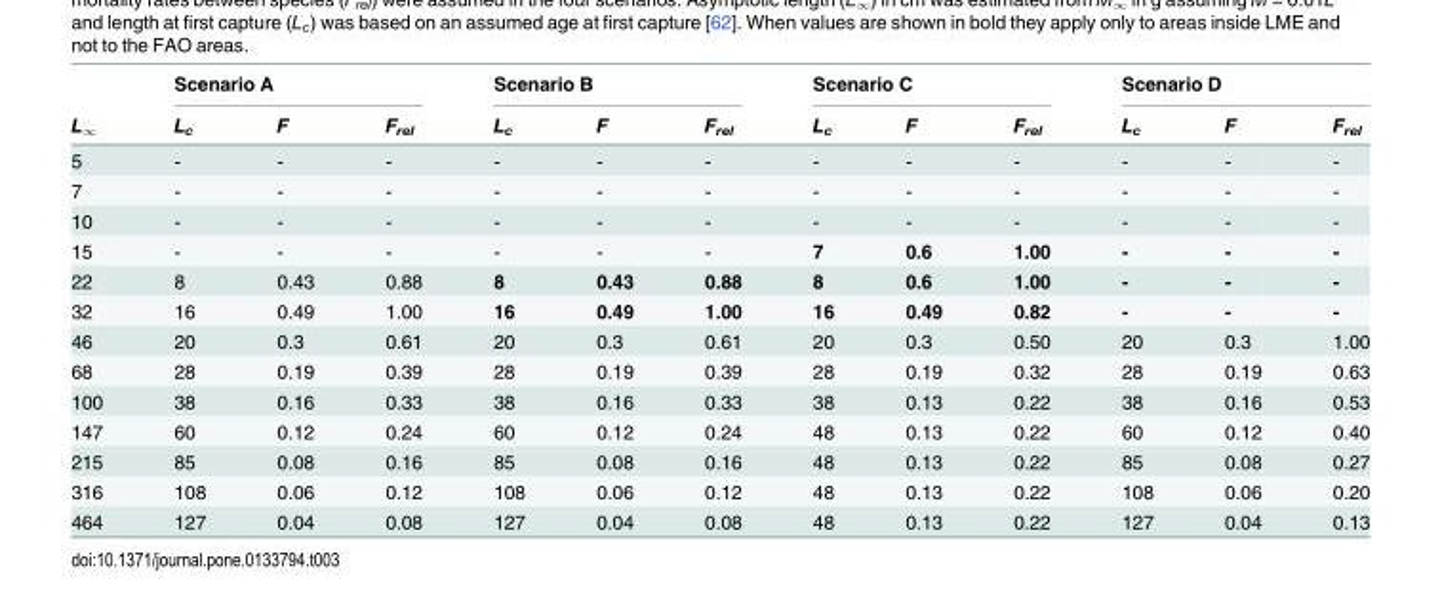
<table><thead><tr><td rowspan="2">L<sub>∞</sub></td><td colspan="3">Scenario A</td><td colspan="3">Scenario B</td><td colspan="3">Scenario C</td><td colspan="3">Scenario D</td></tr><tr><td>L<sub>c</sub></td><td>F</td><td>F<sub>rel</sub></td><td>L<sub>c</sub></td><td>F</td><td>F<sub>rel</sub></td><td>L<sub>c</sub></td><td>F</td><td>F<sub>rel</sub></td><td>L<sub>c</sub></td><td>F</td><td>F<sub>rel</sub></td></tr></thead><tbody><tr><td>5</td><td>-</td><td>-</td><td>-</td><td>-</td><td>-</td><td>-</td><td>-</td><td>-</td><td>-</td><td>-</td><td>-</td><td>-</td></tr><tr><td>7</td><td>-</td><td>-</td><td>-</td><td>-</td><td>-</td><td>-</td><td>-</td><td>-</td><td>-</td><td>-</td><td>-</td><td>-</td></tr><tr><td>10</td><td>-</td><td>-</td><td>-</td><td>-</td><td>-</td><td>-</td><td>-</td><td>-</td><td>-</td><td>-</td><td>-</td><td>-</td></tr><tr><td>15</td><td>-</td><td>-</td><td>-</td><td>-</td><td>-</td><td>-</td><td>7</td><td>0.6</td><td>1.00</td><td>-</td><td>-</td><td>-</td></tr><tr><td>22</td><td>8</td><td>0.43</td><td>0.88</td><td>8</td><td>0.43</td><td>0.88</td><td>8</td><td>0.6</td><td>1.00</td><td>-</td><td>-</td><td>-</td></tr><tr><td>32</td><td>16</td><td>0.49</td><td>1.00</td><td>16</td><td>0.49</td><td>1.00</td><td>16</td><td>0.49</td><td>0.82</td><td>-</td><td>-</td><td>-</td></tr><tr><td>46</td><td>20</td><td>0.3</td><td>0.61</td><td>20</td><td>0.3</td><td>0.61</td><td>20</td><td>0.3</td><td>0.50</td><td>20</td><td>0.3</td><td>1.00</td></tr><tr><td>68</td><td>28</td><td>0.19</td><td>0.39</td><td>28</td><td>0.19</td><td>0.39</td><td>28</td><td>0.19</td><td>0.32</td><td>28</td><td>0.19</td><td>0.63</td></tr><tr><td>100</td><td>38</td><td>0.16</td><td>0.33</td><td>38</td><td>0.16</td><td>0.33</td><td>38</td><td>0.13</td><td>0.22</td><td>38</td><td>0.16</td><td>0.53</td></tr><tr><td>147</td><td>60</td><td>0.12</td><td>0.24</td><td>60</td><td>0.12</td><td>0.24</td><td>48</td><td>0.13</td><td>0.22</td><td>60</td><td>0.12</td><td>0.40</td></tr><tr><td>215</td><td>85</td><td>0.08</td><td>0.16</td><td>85</td><td>0.08</td><td>0.16</td><td>48</td><td>0.13</td><td>0.22</td><td>85</td><td>0.08</td><td>0.27</td></tr><tr><td>316</td><td>108</td><td>0.06</td><td>0.12</td><td>108</td><td>0.06</td><td>0.12</td><td>48</td><td>0.13</td><td>0.22</td><td>108</td><td>0.06</td><td>0.20</td></tr><tr><td>464</td><td>127</td><td>0.04</td><td>0.08</td><td>127</td><td>0.04</td><td>0.08</td><td>48</td><td>0.13</td><td>0.22</td><td>127</td><td>0.04</td><td>0.13</td></tr></tbody></table>